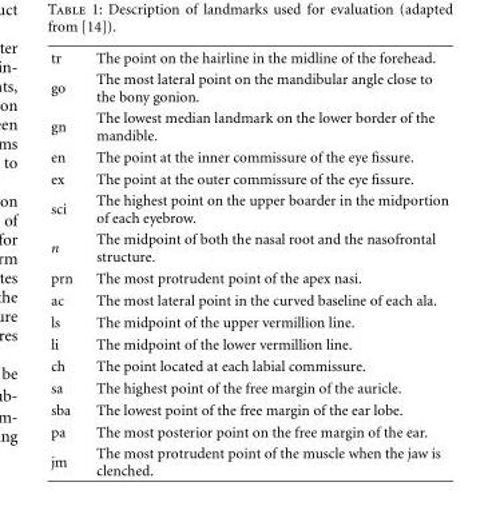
<table><tbody><tr><td>tr</td><td>The point on the hairline in the midline of the forehead.</td></tr><tr><td>go</td><td>The most lateral point on the mandibular angle close to the bony gonion.</td></tr><tr><td>gn</td><td>The lowest median landmark on the lower border of the mandible.</td></tr><tr><td>en</td><td>The point at the inner commissure of the eye fissure.</td></tr><tr><td>ex</td><td>The point at the outer commissure of the eye fissure.</td></tr><tr><td>sci</td><td>The highest point on the upper boarder in the midportion of each eyebrow.</td></tr><tr><td>n</td><td>The midpoint of both the nasal root and the nasofrontal structure.</td></tr><tr><td>prn</td><td>The most protrudent point of the apex nasi.</td></tr><tr><td>ac</td><td>The most lateral point in the curved baseline of each ala.</td></tr><tr><td>ls</td><td>The midpoint of the upper vermillion line.</td></tr><tr><td>li</td><td>The midpoint of the lower vermillion line.</td></tr><tr><td>ch</td><td>The point located at each labial commissure.</td></tr><tr><td>sa</td><td>The highest point of the free margin of the auricle.</td></tr><tr><td>sba</td><td>The lowest point of the free margin of the ear lobe.</td></tr><tr><td>pa</td><td>The most posterior point on the free margin of the ear.</td></tr><tr><td>jm</td><td>The most protrudent point of the muscle when the jaw is clenched.</td></tr></tbody></table>